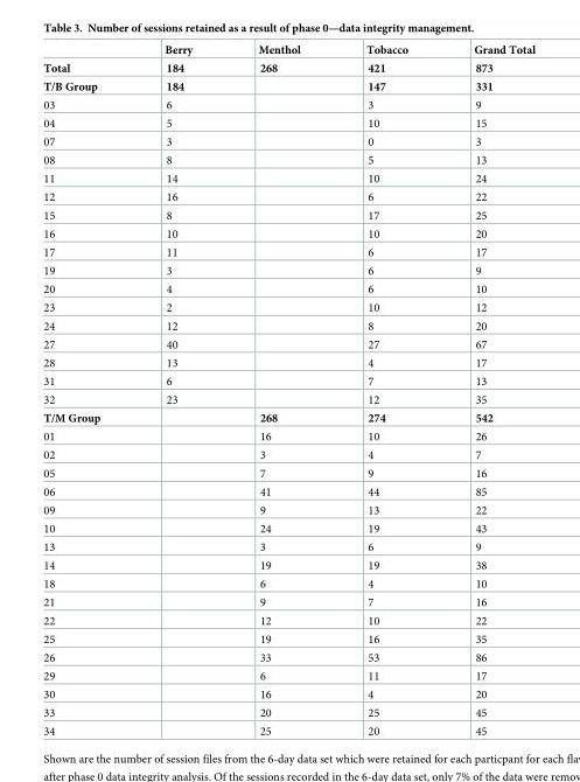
<table><thead><tr><td></td><td>Berry</td><td>Menthol</td><td>Tobacco</td><td>Grand Total</td></tr></thead><tbody><tr><td>Total</td><td>184</td><td>268</td><td>421</td><td>873</td></tr><tr><td>T/B Group</td><td>184</td><td></td><td>147</td><td>331</td></tr><tr><td>03</td><td>6</td><td></td><td>3</td><td>9</td></tr><tr><td>04</td><td>5</td><td></td><td>10</td><td>15</td></tr><tr><td>07</td><td>3</td><td></td><td>0</td><td>3</td></tr><tr><td>08</td><td>8</td><td></td><td>5</td><td>13</td></tr><tr><td>11</td><td>14</td><td></td><td>10</td><td>24</td></tr><tr><td>12</td><td>16</td><td></td><td>6</td><td>22</td></tr><tr><td>15</td><td>8</td><td></td><td>17</td><td>25</td></tr><tr><td>16</td><td>10</td><td></td><td>10</td><td>20</td></tr><tr><td>17</td><td>11</td><td></td><td>6</td><td>17</td></tr><tr><td>19</td><td>3</td><td></td><td>6</td><td>9</td></tr><tr><td>20</td><td>4</td><td></td><td>6</td><td>10</td></tr><tr><td>23</td><td>2</td><td></td><td>10</td><td>12</td></tr><tr><td>24</td><td>12</td><td></td><td>8</td><td>20</td></tr><tr><td>27</td><td>40</td><td></td><td>27</td><td>67</td></tr><tr><td>28</td><td>13</td><td></td><td>4</td><td>17</td></tr><tr><td>31</td><td>6</td><td></td><td>7</td><td>13</td></tr><tr><td>32</td><td>23</td><td></td><td>12</td><td>35</td></tr><tr><td>T/M Group</td><td></td><td>268</td><td>274</td><td>542</td></tr><tr><td>01</td><td></td><td>16</td><td>10</td><td>26</td></tr><tr><td>02</td><td></td><td>3</td><td>4</td><td>7</td></tr><tr><td>05</td><td></td><td>7</td><td>9</td><td>16</td></tr><tr><td>06</td><td></td><td>41</td><td>44</td><td>85</td></tr><tr><td>09</td><td></td><td>9</td><td>13</td><td>22</td></tr><tr><td>10</td><td></td><td>24</td><td>19</td><td>43</td></tr><tr><td>13</td><td></td><td>3</td><td>6</td><td>9</td></tr><tr><td>14</td><td></td><td>19</td><td>19</td><td>38</td></tr><tr><td>18</td><td></td><td>6</td><td>4</td><td>10</td></tr><tr><td>21</td><td></td><td>9</td><td>7</td><td>16</td></tr><tr><td>22</td><td></td><td>12</td><td>10</td><td>22</td></tr><tr><td>25</td><td></td><td>19</td><td>16</td><td>35</td></tr><tr><td>26</td><td></td><td>33</td><td>53</td><td>86</td></tr><tr><td>29</td><td></td><td>6</td><td>11</td><td>17</td></tr><tr><td>30</td><td></td><td>16</td><td>4</td><td>20</td></tr><tr><td>33</td><td></td><td>20</td><td>25</td><td>45</td></tr><tr><td>34</td><td></td><td>25</td><td>20</td><td>45</td></tr></tbody></table>